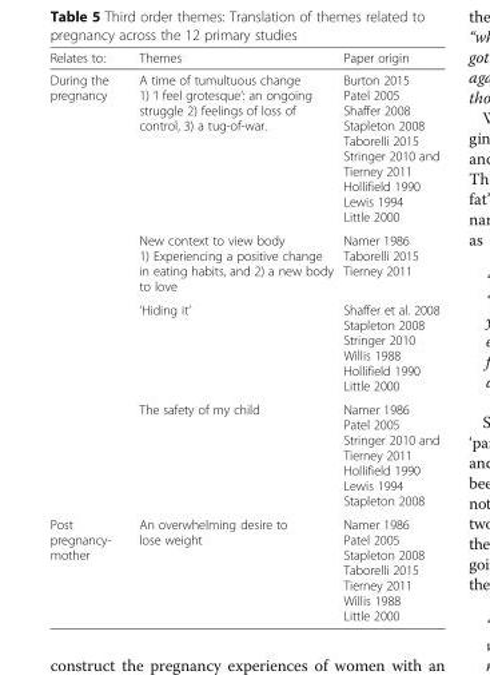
<table><thead><tr><td>Relates to:</td><td>Themes</td><td>Paper origin</td></tr></thead><tbody><tr><td rowspan="4">During the pregnancy</td><td>A time of tumultuous change 1) ‘I feel grotesque’: an ongoing struggle 2) feelings of loss of control, 3) a tug-of-war.</td><td>Burton 2015 Patel 2005 Shaffer 2008 Stapleton 2008 Taborelli 2015 Stringer 2010 and Tierney 2011 Hollifield 1990 Lewis 1994 Little 2000</td></tr><tr><td>New context to view body 1) Experiencing a positive change in eating habits, and 2) a new body to love</td><td>Namer 1986 Taborelli 2015 Tierney 2011</td></tr><tr><td>‘Hiding it’</td><td>Shaffer et al. 2008 Stapleton 2008 Stringer 2010 Willis 1988 Hollifield 1990 Little 2000</td></tr><tr><td>The safety of my child</td><td>Namer 1986 Patel 2005 Stringer 2010 and Tierney 2011 Hollifield 1990 Lewis 1994 Stapleton 2008</td></tr><tr><td>Post pregnancy- mother</td><td>An overwhelming desire to lose weight</td><td>Namer 1986 Patel 2005 Stapleton 2008 Taborelli 2015 Tierney 2011 Willis 1988 Little 2000</td></tr></tbody></table>